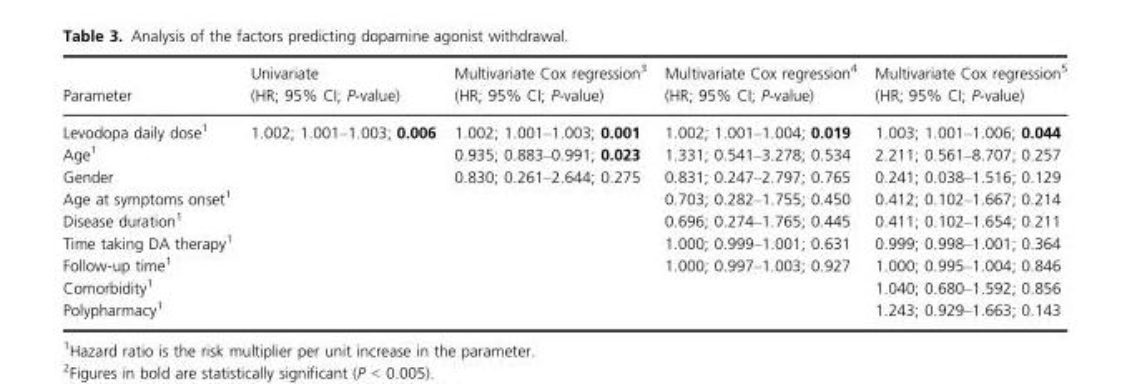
<table><thead><tr><td>Parameter</td><td>Univariate (HR; 95% CI; P-value)</td><td>Multivariate Cox regression<sup>3</sup> (HR; 95% CI; P-value)</td><td>Multivariate Cox regression<sup>4</sup> (HR; 95% CI; P-value)</td><td>Multivariate Cox regression<sup>5</sup> (HR; 95% CI; P-value)</td></tr></thead><tbody><tr><td>Levodopa daily dose<sup>1</sup></td><td>1.002; 1.001–1.003; 0.006</td><td>1.002; 1.001–1.003; 0.001</td><td>1.002; 1.001–1.004; 0.019</td><td>1.003; 1.001–1.006; 0.044</td></tr><tr><td>Age<sup>1</sup></td><td></td><td>0.935; 0.883–0.991; 0.023</td><td>1.331; 0.541–3.278; 0.534</td><td>2.211; 0.561–8.707; 0.257</td></tr><tr><td>Gender</td><td></td><td>0.830; 0.261–2.644; 0.275</td><td>0.831; 0.247–2.797; 0.765</td><td>0.241; 0.038–1.516; 0.129</td></tr><tr><td>Age at symptoms onset<sup>1</sup></td><td></td><td></td><td>0.703; 0.282–1.755; 0.450</td><td>0.412; 0.102–1.667; 0.214</td></tr><tr><td>Disease duration<sup>1</sup></td><td></td><td></td><td>0.696; 0.274–1.765; 0.445</td><td>0.411; 0.102–1.654; 0.211</td></tr><tr><td>Time taking DA therapy<sup>1</sup></td><td></td><td></td><td>1.000; 0.999–1.001; 0.631</td><td>0.999; 0.998–1.001; 0.364</td></tr><tr><td>Follow-up time<sup>1</sup></td><td></td><td></td><td>1.000; 0.997–1.003; 0.927</td><td>1.000; 0.995–1.004; 0.846</td></tr><tr><td>Comorbidity<sup>1</sup></td><td></td><td></td><td></td><td>1.040; 0.680–1.592; 0.856</td></tr><tr><td>Polypharmacy<sup>1</sup></td><td></td><td></td><td></td><td>1.243; 0.929–1.663; 0.143</td></tr></tbody></table>